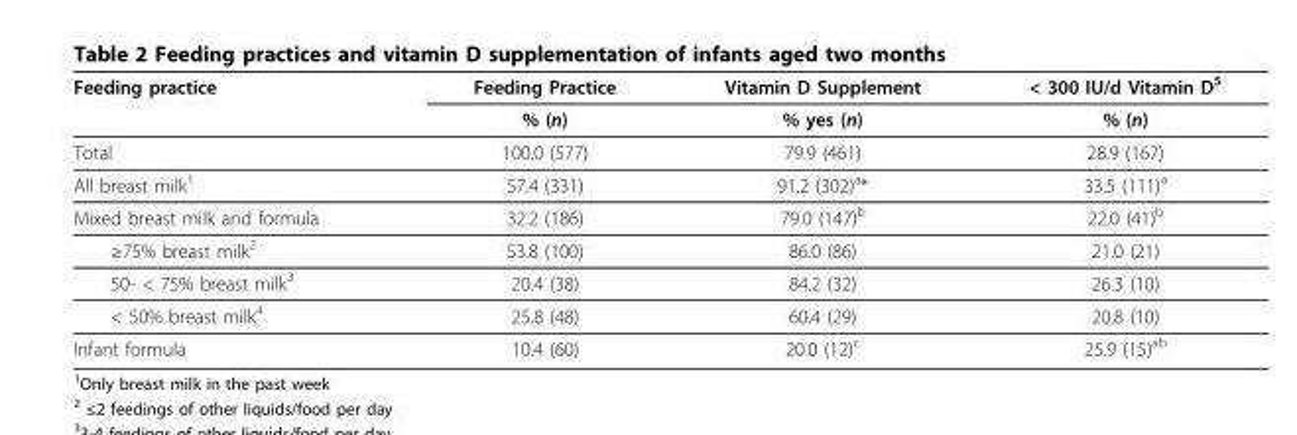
<table><thead><tr><td rowspan="2">Feeding practice</td><td rowspan="2">Feeding Practice % (n)</td><td rowspan="2">Vitamin D Supplement % yes (n)</td><td rowspan="2">&lt; 300 IU/d Vitamin D<sup>5</sup> % (n)</td></tr><tr></tr></thead><tbody><tr><td>Total</td><td>100.0 (577)</td><td>79.9 (461)</td><td>28.9 (167)</td></tr><tr><td>All breast milk<sup>1</sup></td><td>57.4 (331)</td><td>91.2 (302)<sup>a</sup>*</td><td>33.5 (111)<sup>a</sup></td></tr><tr><td>Mixed breast milk and formula</td><td>32.2 (186)</td><td>79.0 (147)<sup>b</sup></td><td>22.0 (41)<sup>b</sup></td></tr><tr><td>≥75% breast milk<sup>2</sup></td><td>53.8 (100)</td><td>86.0 (86)</td><td>21.0 (21)</td></tr><tr><td>50- &lt; 75% breast milk<sup>3</sup></td><td>20.4 (38)</td><td>84.2 (32)</td><td>26.3 (10)</td></tr><tr><td>&lt; 50% breast milk<sup>4</sup></td><td>25.8 (48)</td><td>60.4 (29)</td><td>20.8 (10)</td></tr><tr><td>Infant formula</td><td>10.4 (60)</td><td>20.0 (12)<sup>c</sup></td><td>25.9 (15)<sup>ab</sup></td></tr></tbody></table>